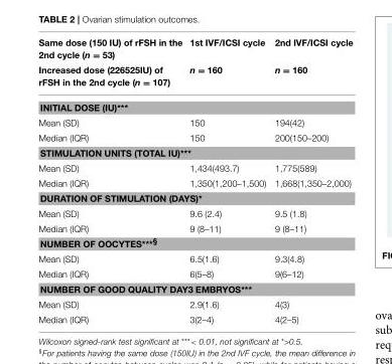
<table><thead><tr><td rowspan="2">Same dose (150 IU) of rFSH in the 2nd cycle (n = 53) Increased dose (226525IU) of rFSH in the 2nd cycle (n = 107)</td><td rowspan="2">1st IVF/ICSI cycle n = 160</td><td rowspan="2">2nd IVF/ICSI cycle n = 160</td></tr><tr></tr></thead><tbody><tr><td colspan="3">INITIAL DOSE (IU)***</td></tr><tr><td>Mean (SD)</td><td>150</td><td>194(42)</td></tr><tr><td>Median (IQR)</td><td>150</td><td>200(150–200)</td></tr><tr><td colspan="3">STIMULATION UNITS (TOTAL IU)***</td></tr><tr><td>Mean (SD)</td><td>1,434(493.7)</td><td>1,775(589)</td></tr><tr><td>Median (IQR)</td><td>1,350(1,200–1,500)</td><td>1,668(1,350–2,000)</td></tr><tr><td colspan="3">DURATION OF STIMULATION (DAYS)*</td></tr><tr><td>Mean (SD)</td><td>9.6 (2.4)</td><td>9.5 (1.8)</td></tr><tr><td>Median (IQR)</td><td>9 (8–11)</td><td>9 (8–11)</td></tr><tr><td colspan="3">NUMBER OF OOCYTES<sup>***§</sup></td></tr><tr><td>Mean (SD)</td><td>6.5(1.6)</td><td>9.3(4.8)</td></tr><tr><td>Median (IQR)</td><td>6(5–8)</td><td>9(6–12)</td></tr><tr><td colspan="3">NUMBER OF GOOD QUALITY DAY3 EMBRYOS***</td></tr><tr><td>Mean (SD)</td><td>2.9(1.6)</td><td>4(3)</td></tr><tr><td>Median (IQR)</td><td>3(2–4)</td><td>4(2–5)</td></tr></tbody></table>